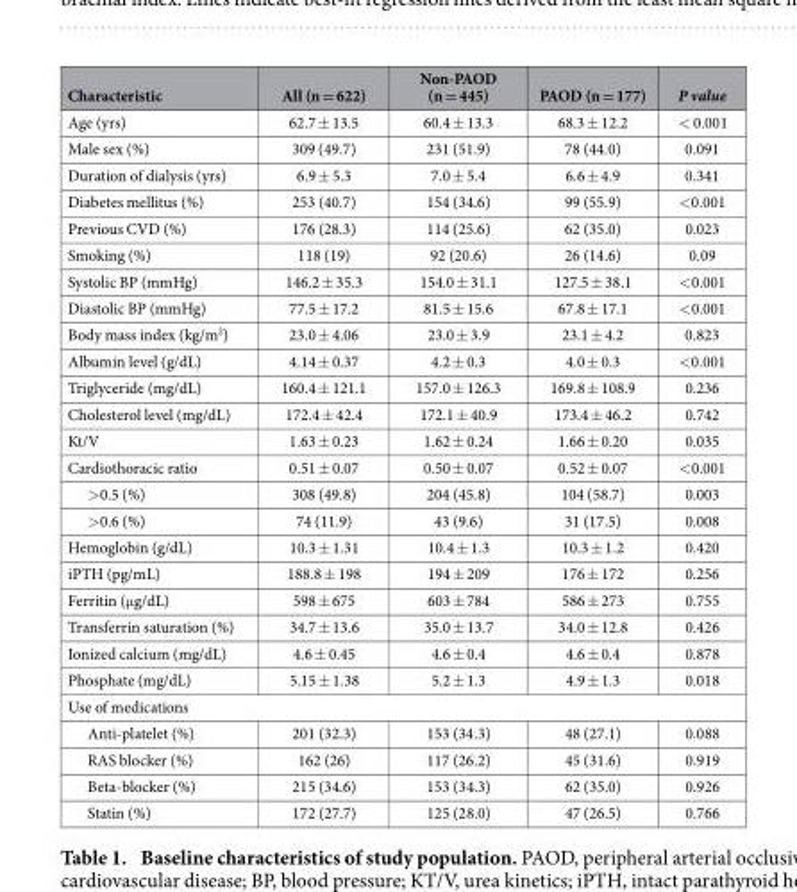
<table><thead><tr><td>Characteristic</td><td>All (n = 622)</td><td>Non-PAOD (n = 445)</td><td>PAOD (n = 177)</td><td>P value</td></tr></thead><tbody><tr><td>Age (yrs)</td><td>62.7 ± 13.5</td><td>60.4 ± 13.3</td><td>68.3 ± 12.2</td><td>&lt; 0.001</td></tr><tr><td>Male sex (%)</td><td>309 (49.7)</td><td>231 (51.9)</td><td>78 (44.0)</td><td>0.091</td></tr><tr><td>Duration of dialysis (yrs)</td><td>6.9 ± 5.3</td><td>7.0 ± 5.4</td><td>6.6 ± 4.9</td><td>0.341</td></tr><tr><td>Diabetes mellitus (%)</td><td>253 (40.7)</td><td>154 (34.6)</td><td>99 (55.9)</td><td>&lt; 0.001</td></tr><tr><td>Previous CVD (%)</td><td>176 (28.3)</td><td>114 (25.6)</td><td>62 (35.0)</td><td>0.023</td></tr><tr><td>Smoking (%)</td><td>118 (19)</td><td>92 (20.6)</td><td>26 (14.6)</td><td>0.09</td></tr><tr><td>Systolic BP (mmHg)</td><td>146.2 ± 35.3</td><td>154.0 ± 31.1</td><td>127.5 ± 38.1</td><td>&lt; 0.001</td></tr><tr><td>Diastolic BP (mmHg)</td><td>77.5 ± 17.2</td><td>81.5 ± 15.6</td><td>67.8 ± 17.1</td><td>&lt; 0.001</td></tr><tr><td>Body mass index (kg/m<sup>2</sup>)</td><td>23.0 ± 4.06</td><td>23.0 ± 3.9</td><td>23.1 ± 4.2</td><td>0.823</td></tr><tr><td>Albumin level (g/dL)</td><td>4.14 ± 0.37</td><td>4.2 ± 0.3</td><td>4.0 ± 0.3</td><td>&lt; 0.001</td></tr><tr><td>Triglyceride (mg/dL)</td><td>160.4 ± 121.1</td><td>157.0 ± 126.3</td><td>169.8 ± 108.9</td><td>0.236</td></tr><tr><td>Cholesterol level (mg/dL)</td><td>172.4 ± 42.4</td><td>172.1 ± 40.9</td><td>173.4 ± 46.2</td><td>0.742</td></tr><tr><td>Kt/V</td><td>1.63 ± 0.23</td><td>1.62 ± 0.24</td><td>1.66 ± 0.20</td><td>0.035</td></tr><tr><td>Cardiothoracic ratio</td><td>0.51 ± 0.07</td><td>0.50 ± 0.07</td><td>0.52 ± 0.07</td><td>&lt; 0.001</td></tr><tr><td>&gt; 0.5 (%)</td><td>308 (49.8)</td><td>204 (45.8)</td><td>104 (58.7)</td><td>0.003</td></tr><tr><td>&gt; 0.6 (%)</td><td>74 (11.9)</td><td>43 (9.6)</td><td>31 (17.5)</td><td>0.008</td></tr><tr><td>Hemoglobin (g/dL)</td><td>10.3 ± 1.31</td><td>10.4 ± 1.3</td><td>10.3 ± 1.2</td><td>0.420</td></tr><tr><td>iPTH (pg/mL)</td><td>188.8 ± 198</td><td>194 ± 209</td><td>176 ± 172</td><td>0.256</td></tr><tr><td>Ferritin (μ g/dL)</td><td>598 ± 675</td><td>603 ± 784</td><td>586 ± 273</td><td>0.755</td></tr><tr><td>Transferrin saturation (%)</td><td>34.7 ± 13.6</td><td>35.0 ± 13.7</td><td>34.0 ± 12.8</td><td>0.426</td></tr><tr><td>Ionized calcium (mg/dL)</td><td>4.6 ± 0.45</td><td>4.6 ± 0.4</td><td>4.6 ± 0.4</td><td>0.878</td></tr><tr><td>Phosphate (mg/dL)</td><td>5.15 ± 1.38</td><td>5.2 ± 1.3</td><td>4.9 ± 1.3</td><td>0.018</td></tr><tr><td colspan="5">Use of medications</td></tr><tr><td>Anti-platelet (%)</td><td>201 (32.3)</td><td>153 (34.3)</td><td>48 (27.1)</td><td>0.088</td></tr><tr><td>RAS blocker (%)</td><td>162 (26)</td><td>117 (26.2)</td><td>45 (31.6)</td><td>0.919</td></tr><tr><td>Beta-blocker (%)</td><td>215 (34.6)</td><td>153 (34.3)</td><td>62 (35.0)</td><td>0.926</td></tr><tr><td>Statin (%)</td><td>172 (27.7)</td><td>125 (28.0)</td><td>47 (26.5)</td><td>0.766</td></tr></tbody></table>